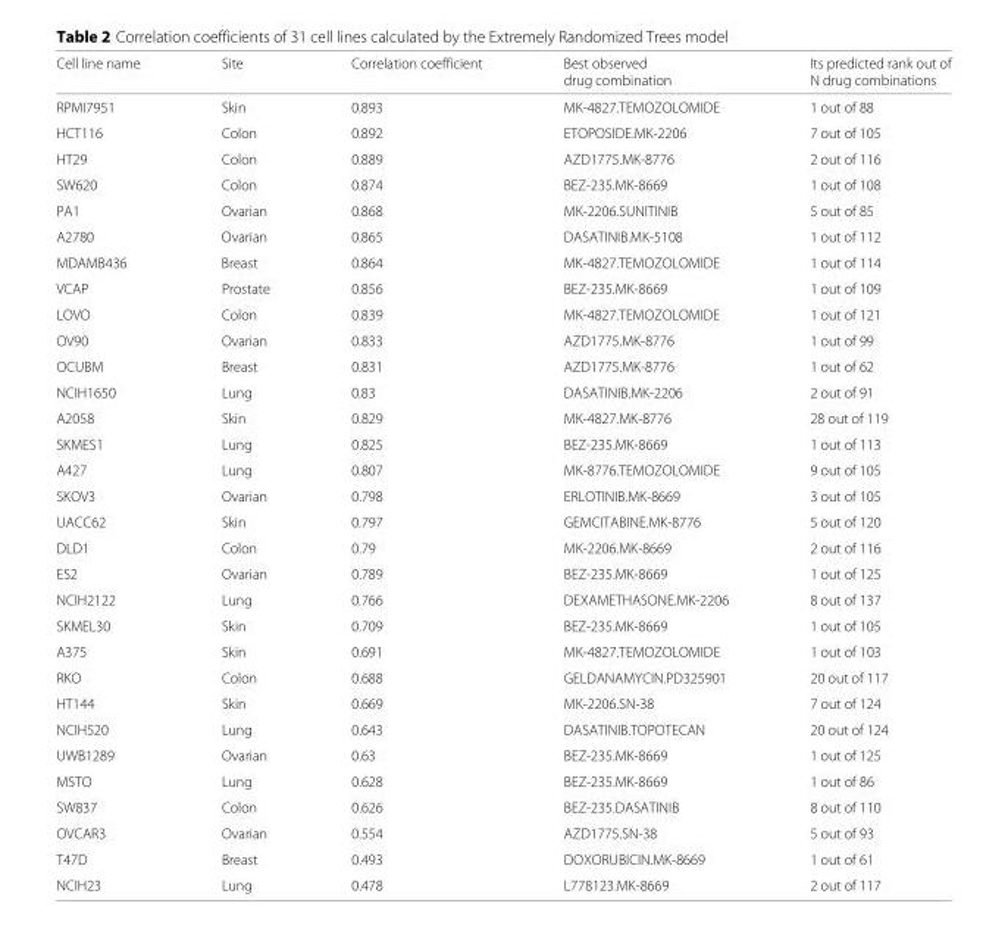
<table><thead><tr><td rowspan="2">Cell line name</td><td rowspan="2">Site</td><td rowspan="2">Correlation coefficient</td><td rowspan="2">Best observed drug combination</td><td rowspan="2">Its predicted rank out of N drug combinations</td></tr><tr></tr></thead><tbody><tr><td>RPMI7951</td><td>Skin</td><td>0.893</td><td>MK-4827.TEMOZOLOMIDE</td><td>1 out of 88</td></tr><tr><td>HCT116</td><td>Colon</td><td>0.892</td><td>ETOPOSIDE.MK-2206</td><td>7 out of 105</td></tr><tr><td>HT29</td><td>Colon</td><td>0.889</td><td>AZD1775.MK-8776</td><td>2 out of 116</td></tr><tr><td>SW620</td><td>Colon</td><td>0.874</td><td>BEZ-235.MK-8669</td><td>1 out of 108</td></tr><tr><td>PA1</td><td>Ovarian</td><td>0.868</td><td>MK-2206.SUNITINIB</td><td>5 out of 85</td></tr><tr><td>A2780</td><td>Ovarian</td><td>0.865</td><td>DASATINIB.MK-5108</td><td>1 out of 112</td></tr><tr><td>MDAMB436</td><td>Breast</td><td>0.864</td><td>MK-4827.TEMOZOLOMIDE</td><td>1 out of 114</td></tr><tr><td>VCAP</td><td>Prostate</td><td>0.856</td><td>BEZ-235.MK-8669</td><td>1 out of 109</td></tr><tr><td>LOVO</td><td>Colon</td><td>0.839</td><td>MK-4827.TEMOZOLOMIDE</td><td>1 out of 121</td></tr><tr><td>OV90</td><td>Ovarian</td><td>0.833</td><td>AZD1775.MK-8776</td><td>1 out of 99</td></tr><tr><td>OCUBM</td><td>Breast</td><td>0.831</td><td>AZD1775.MK-8776</td><td>1 out of 62</td></tr><tr><td>NCIH1650</td><td>Lung</td><td>0.83</td><td>DASATINIB.MK-2206</td><td>2 out of 91</td></tr><tr><td>A2058</td><td>Skin</td><td>0.829</td><td>MK-4827.MK-8776</td><td>28 out of 119</td></tr><tr><td>SKMES1</td><td>Lung</td><td>0.825</td><td>BEZ-235.MK-8669</td><td>1 out of 113</td></tr><tr><td>A427</td><td>Lung</td><td>0.807</td><td>MK-8776.TEMOZOLOMIDE</td><td>9 out of 105</td></tr><tr><td>SKOV3</td><td>Ovarian</td><td>0.798</td><td>ERLOTINIB.MK-8669</td><td>3 out of 105</td></tr><tr><td>UACC62</td><td>Skin</td><td>0.797</td><td>GEMCITABINE.MK-8776</td><td>5 out of 120</td></tr><tr><td>DLD1</td><td>Colon</td><td>0.79</td><td>MK-2206.MK-8669</td><td>2 out of 116</td></tr><tr><td>ES2</td><td>Ovarian</td><td>0.789</td><td>BEZ-235.MK-8669</td><td>1 out of 125</td></tr><tr><td>NCIH2122</td><td>Lung</td><td>0.766</td><td>DEXAMETHASONE.MK-2206</td><td>8 out of 137</td></tr><tr><td>SKMEL30</td><td>Skin</td><td>0.709</td><td>BEZ-235.MK-8669</td><td>1 out of 105</td></tr><tr><td>A375</td><td>Skin</td><td>0.691</td><td>MK-4827.TEMOZOLOMIDE</td><td>1 out of 103</td></tr><tr><td>RKO</td><td>Colon</td><td>0.688</td><td>GELDANAMYCIN.PD325901</td><td>20 out of 117</td></tr><tr><td>HT144</td><td>Skin</td><td>0.669</td><td>MK-2206.SN-38</td><td>7 out of 124</td></tr><tr><td>NCIH520</td><td>Lung</td><td>0.643</td><td>DASATINIB.TOPOTECAN</td><td>20 out of 124</td></tr><tr><td>UWB1289</td><td>Ovarian</td><td>0.63</td><td>BEZ-235.MK-8669</td><td>1 out of 125</td></tr><tr><td>MSTO</td><td>Lung</td><td>0.628</td><td>BEZ-235.MK-8669</td><td>1 out of 86</td></tr><tr><td>SW837</td><td>Colon</td><td>0.626</td><td>BEZ-235.DASATINIB</td><td>8 out of 110</td></tr><tr><td>OVCAR3</td><td>Ovarian</td><td>0.554</td><td>AZD1775.SN-38</td><td>5 out of 93</td></tr><tr><td>T47D</td><td>Breast</td><td>0.493</td><td>DOXORUBICIN.MK-8669</td><td>1 out of 61</td></tr><tr><td>NCIH23</td><td>Lung</td><td>0.478</td><td>L778123.MK-8669</td><td>2 out of 117</td></tr></tbody></table>